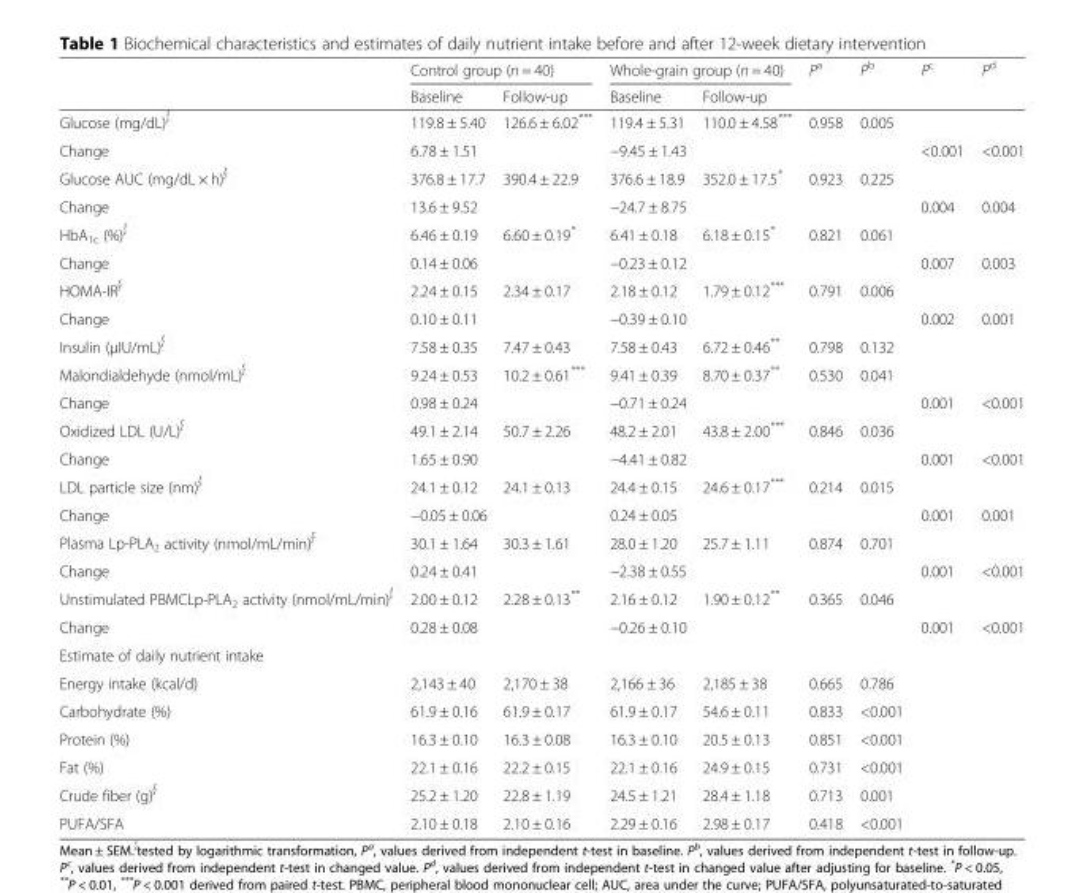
<table><thead><tr><td rowspan="2"></td><td colspan="2">Control group (n = 40)</td><td colspan="2">Whole-grain group (n = 40)</td><td rowspan="2">P<sup>a</sup></td><td rowspan="2">P<sup>b</sup></td><td rowspan="2">P<sup>c</sup></td><td rowspan="2">P<sup>d</sup></td></tr><tr><td>Baseline</td><td>Follow-up</td><td>Baseline</td><td>Follow-up</td></tr></thead><tbody><tr><td>Glucose (mg/dL)<sup>∮</sup></td><td>119.8 ± 5.40</td><td>126.6 ± 6.02***</td><td>119.4 ± 5.31</td><td>110.0 ± 4.58***</td><td>0.958</td><td>0.005</td><td colspan="2"></td></tr><tr><td>Change</td><td colspan="2">6.78 ± 1.51</td><td colspan="2">−9.45 ± 1.43</td><td></td><td></td><td>&lt;0.001</td><td>&lt;0.001</td></tr><tr><td>Glucose AUC (mg/dL × h)<sup>∮</sup></td><td>376.8 ± 17.7</td><td>390.4 ± 22.9</td><td>376.6 ± 18.9</td><td>352.0 ± 17.5*</td><td>0.923</td><td>0.225</td><td colspan="2"></td></tr><tr><td>Change</td><td colspan="2">13.6 ± 9.52</td><td colspan="2">−24.7 ± 8.75</td><td></td><td></td><td>0.004</td><td>0.004</td></tr><tr><td>HbA<sub>1c</sub> (%)<sup>∮</sup></td><td>6.46 ± 0.19</td><td>6.60 ± 0.19*</td><td>6.41 ± 0.18</td><td>6.18 ± 0.15*</td><td>0.821</td><td>0.061</td><td colspan="2"></td></tr><tr><td>Change</td><td colspan="2">0.14 ± 0.06</td><td colspan="2">−0.23 ± 0.12</td><td></td><td></td><td>0.007</td><td>0.003</td></tr><tr><td>HOMA-IR<sup>∮</sup></td><td>2.24 ± 0.15</td><td>2.34 ± 0.17</td><td>2.18 ± 0.12</td><td>1.79 ± 0.12***</td><td>0.791</td><td>0.006</td><td colspan="2"></td></tr><tr><td>Change</td><td colspan="2">0.10 ± 0.11</td><td colspan="2">−0.39 ± 0.10</td><td></td><td></td><td>0.002</td><td>0.001</td></tr><tr><td>Insulin (μIU/mL)<sup>∮</sup></td><td>7.58 ± 0.35</td><td>7.47 ± 0.43</td><td>7.58 ± 0.43</td><td>6.72 ± 0.46**</td><td>0.798</td><td>0.132</td><td colspan="2"></td></tr><tr><td>Malondialdehyde (nmol/mL)<sup>∮</sup></td><td>9.24 ± 0.53</td><td>10.2 ± 0.61***</td><td>9.41 ± 0.39</td><td>8.70 ± 0.37**</td><td>0.530</td><td>0.041</td><td colspan="2"></td></tr><tr><td>Change</td><td colspan="2">0.98 ± 0.24</td><td colspan="2">−0.71 ± 0.24</td><td></td><td></td><td>0.001</td><td>&lt;0.001</td></tr><tr><td>Oxidized LDL (U/L)<sup>∮</sup></td><td>49.1 ± 2.14</td><td>50.7 ± 2.26</td><td>48.2 ± 2.01</td><td>43.8 ± 2.00***</td><td>0.846</td><td>0.036</td><td colspan="2"></td></tr><tr><td>Change</td><td colspan="2">1.65 ± 0.90</td><td colspan="2">−4.41 ± 0.82</td><td></td><td></td><td>0.001</td><td>&lt;0.001</td></tr><tr><td>LDL particle size (nm)<sup>∮</sup></td><td>24.1 ± 0.12</td><td>24.1 ± 0.13</td><td>24.4 ± 0.15</td><td>24.6 ± 0.17***</td><td>0.214</td><td>0.015</td><td colspan="2"></td></tr><tr><td>Change</td><td colspan="2">−0.05 ± 0.06</td><td colspan="2">0.24 ± 0.05</td><td></td><td></td><td>0.001</td><td>0.001</td></tr><tr><td>Plasma Lp-PLA<sub>2</sub> activity (nmol/mL/min)<sup>∮</sup></td><td>30.1 ± 1.64</td><td>30.3 ± 1.61</td><td>28.0 ± 1.20</td><td>25.7 ± 1.11</td><td>0.874</td><td>0.701</td><td colspan="2"></td></tr><tr><td>Change</td><td colspan="2">0.24 ± 0.41</td><td colspan="2">−2.38 ± 0.55</td><td></td><td></td><td>0.001</td><td>&lt;0.001</td></tr><tr><td>Unstimulated PBMCLp-PLA<sub>2</sub> activity (nmol/mL/min)<sup>∮</sup></td><td>2.00 ± 0.12</td><td>2.28 ± 0.13**</td><td>2.16 ± 0.12</td><td>1.90 ± 0.12**</td><td>0.365</td><td>0.046</td><td colspan="2"></td></tr><tr><td>Change</td><td colspan="2">0.28 ± 0.08</td><td colspan="2">−0.26 ± 0.10</td><td></td><td></td><td>0.001</td><td>&lt;0.001</td></tr><tr><td colspan="9">Estimate of daily nutrient intake</td></tr><tr><td>Energy intake (kcal/d)</td><td>2,143 ± 40</td><td>2,170 ± 38</td><td>2,166 ± 36</td><td>2,185 ± 38</td><td>0.665</td><td>0.786</td><td colspan="2"></td></tr><tr><td>Carbohydrate (%)</td><td>61.9 ± 0.16</td><td>61.9 ± 0.17</td><td>61.9 ± 0.17</td><td>54.6 ± 0.11</td><td>0.833</td><td>&lt;0.001</td><td colspan="2"></td></tr><tr><td>Protein (%)</td><td>16.3 ± 0.10</td><td>16.3 ± 0.08</td><td>16.3 ± 0.10</td><td>20.5 ± 0.13</td><td>0.851</td><td>&lt;0.001</td><td colspan="2"></td></tr><tr><td>Fat (%)</td><td>22.1 ± 0.16</td><td>22.2 ± 0.15</td><td>22.1 ± 0.16</td><td>24.9 ± 0.15</td><td>0.731</td><td>&lt;0.001</td><td colspan="2"></td></tr><tr><td>Crude fiber (g)<sup>∮</sup></td><td>25.2 ± 1.20</td><td>22.8 ± 1.19</td><td>24.5 ± 1.21</td><td>28.4 ± 1.18</td><td>0.713</td><td>0.001</td><td colspan="2"></td></tr><tr><td>PUFA/SFA</td><td>2.10 ± 0.18</td><td>2.10 ± 0.16</td><td>2.29 ± 0.16</td><td>2.98 ± 0.17</td><td>0.418</td><td>&lt;0.001</td><td colspan="2"></td></tr></tbody></table>